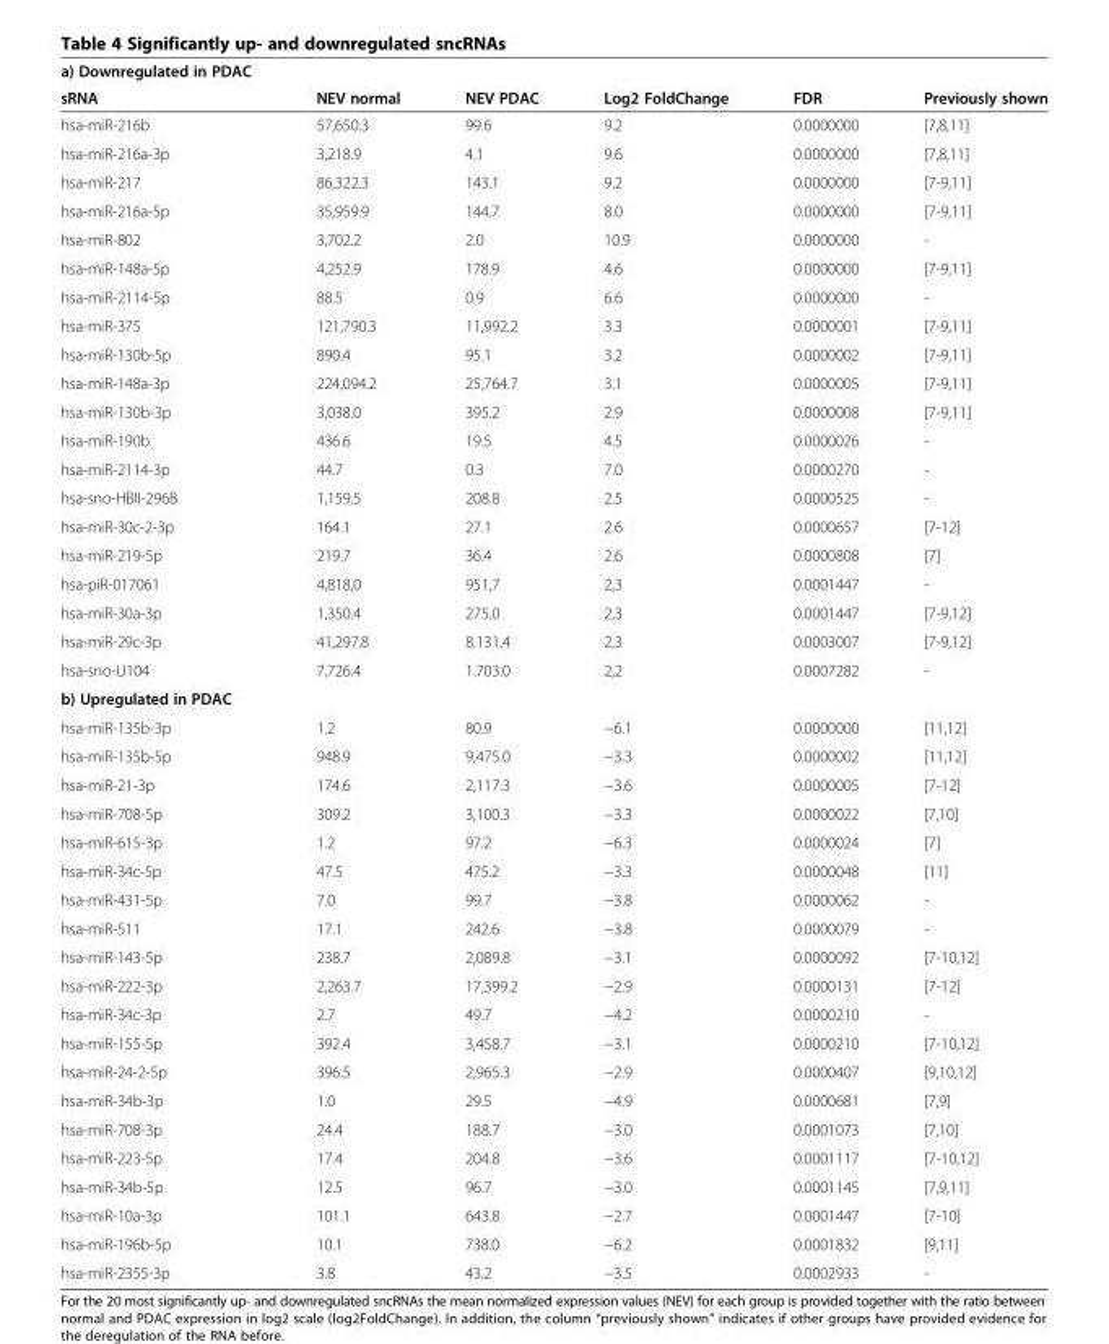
<table><thead><tr><td rowspan="2">a) Downregulated in PDAC sRNA</td><td rowspan="2">NEV normal</td><td rowspan="2">NEV PDAC</td><td rowspan="2">Log2 FoldChange</td><td rowspan="2">FDR</td><td rowspan="2">Previously shown</td></tr><tr></tr></thead><tbody><tr><td>hsa-miR-216b</td><td>57,650.3</td><td>99.6</td><td>9.2</td><td>0.0000000</td><td>[7,8,11]</td></tr><tr><td>hsa-miR-216a-3p</td><td>3,218.9</td><td>4.1</td><td>9.6</td><td>0.0000000</td><td>[7,8,11]</td></tr><tr><td>hsa-miR-217</td><td>86,322.3</td><td>143.1</td><td>9.2</td><td>0.0000000</td><td>[7-9,11]</td></tr><tr><td>hsa-miR-216a-5p</td><td>35,959.9</td><td>144.7</td><td>8.0</td><td>0.0000000</td><td>[7-9,11]</td></tr><tr><td>hsa-miR-802</td><td>3,702.2</td><td>2.0</td><td>10.9</td><td>0.0000000</td><td>-</td></tr><tr><td>hsa-miR-148a-5p</td><td>4,252.9</td><td>178.9</td><td>4.6</td><td>0.0000000</td><td>[7-9,11]</td></tr><tr><td>hsa-miR-2114-5p</td><td>88.5</td><td>0.9</td><td>6.6</td><td>0.0000000</td><td>-</td></tr><tr><td>hsa-miR-375</td><td>121,790.3</td><td>11,992.2</td><td>3.3</td><td>0.0000001</td><td>[7-9,11]</td></tr><tr><td>hsa-miR-130b-5p</td><td>890.4</td><td>95.1</td><td>3.2</td><td>0.0000002</td><td>[7-9,11]</td></tr><tr><td>hsa-miR-148a-3p</td><td>224,094.2</td><td>25,764.7</td><td>3.1</td><td>0.0000005</td><td>[7-9,11]</td></tr><tr><td>hsa-miR-130b-3p</td><td>3,038.0</td><td>395.2</td><td>2.9</td><td>0.0000008</td><td>[7-9,11]</td></tr><tr><td>hsa-miR-190b</td><td>436.6</td><td>19.5</td><td>4.5</td><td>0.0000026</td><td>-</td></tr><tr><td>hsa-miR-2114-3p</td><td>44.7</td><td>0.3</td><td>7.0</td><td>0.0000270</td><td>-</td></tr><tr><td>hsa-sno-HBII-296B</td><td>1,159.5</td><td>208.8</td><td>2.5</td><td>0.0000525</td><td>-</td></tr><tr><td>hsa-miR-30c-2-3p</td><td>164.1</td><td>27.1</td><td>2.6</td><td>0.0000657</td><td>[7-12]</td></tr><tr><td>hsa-miR-219-5p</td><td>219.7</td><td>36.4</td><td>2.6</td><td>0.0000808</td><td>[7]</td></tr><tr><td>hsa-piR-017061</td><td>4,818,0</td><td>951,7</td><td>2,3</td><td>0.0001447</td><td>-</td></tr><tr><td>hsa-miR-30a-3p</td><td>1,350.4</td><td>275.0</td><td>2,3</td><td>0.0001447</td><td>[7-9,12]</td></tr><tr><td>hsa-miR-29c-3p</td><td>41,297.8</td><td>8.131.4</td><td>2,3</td><td>0.0003007</td><td>[7-9,12]</td></tr><tr><td>hsa-sno-U104</td><td>7,726.4</td><td>1.703.0</td><td>2,2</td><td>0.0007282</td><td>-</td></tr><tr><td colspan="6">b) Upregulated in PDAC</td></tr><tr><td>hsa-miR-135b-3p</td><td>1.2</td><td>80.9</td><td>−6.1</td><td>0.0000000</td><td>[11,12]</td></tr><tr><td>hsa-miR-135b-5p</td><td>948.9</td><td>9,475.0</td><td>−3.3</td><td>0.0000002</td><td>[11,12]</td></tr><tr><td>hsa-miR-21-3p</td><td>174.6</td><td>2,117.3</td><td>−3.6</td><td>0.0000005</td><td>[7-12]</td></tr><tr><td>hsa-miR-708-5p</td><td>309.2</td><td>3,100.3</td><td>−3.3</td><td>0.0000022</td><td>[7,10]</td></tr><tr><td>hsa-miR-615-3p</td><td>1.2</td><td>97.2</td><td>−6.3</td><td>0.0000024</td><td>[7]</td></tr><tr><td>hsa-miR-34c-5p</td><td>47.5</td><td>475.2</td><td>−3.3</td><td>0.0000048</td><td>[11]</td></tr><tr><td>hsa-miR-431-5p</td><td>7.0</td><td>99.7</td><td>−3.8</td><td>0.0000062</td><td>-</td></tr><tr><td>hsa-miR-511</td><td>17.1</td><td>242.6</td><td>−3.8</td><td>0.0000079</td><td>-</td></tr><tr><td>hsa-miR-143-5p</td><td>238.7</td><td>2,089.8</td><td>−3.1</td><td>0.0000092</td><td>[7-10,12]</td></tr><tr><td>hsa-miR-222-3p</td><td>2,263.7</td><td>17,399.2</td><td>−2.9</td><td>0.0000131</td><td>[7-12]</td></tr><tr><td>hsa-miR-34c-3p</td><td>2.7</td><td>49.7</td><td>−4.2</td><td>0.0000210</td><td>-</td></tr><tr><td>hsa-miR-155-5p</td><td>392.4</td><td>3,458.7</td><td>−3.1</td><td>0.0000210</td><td>[7-10,12]</td></tr><tr><td>hsa-miR-24-2-5p</td><td>396.5</td><td>2,965.3</td><td>−2.9</td><td>0.0000407</td><td>[9,10,12]</td></tr><tr><td>hsa-miR-34b-3p</td><td>1.0</td><td>29.5</td><td>−4.9</td><td>0.0000681</td><td>[7,9]</td></tr><tr><td>hsa-miR-708-3p</td><td>24.4</td><td>188.7</td><td>−3.0</td><td>0.0001073</td><td>[7,10]</td></tr><tr><td>hsa-miR-223-5p</td><td>17.4</td><td>204.8</td><td>−3.6</td><td>0.0001117</td><td>[7-10,12]</td></tr><tr><td>hsa-miR-34b-5p</td><td>12.5</td><td>96.7</td><td>−3.0</td><td>0.0001145</td><td>[7,9,11]</td></tr><tr><td>hsa-miR-10a-3p</td><td>101.1</td><td>643.8</td><td>−2.7</td><td>0.0001447</td><td>[7-10]</td></tr><tr><td>hsa-miR-196b-5p</td><td>10.1</td><td>738.0</td><td>−6.2</td><td>0.0001832</td><td>[9,11]</td></tr><tr><td>hsa-miR-2355-3p</td><td>3.8</td><td>43.2</td><td>−3.5</td><td>0.0002933</td><td>-</td></tr></tbody></table>